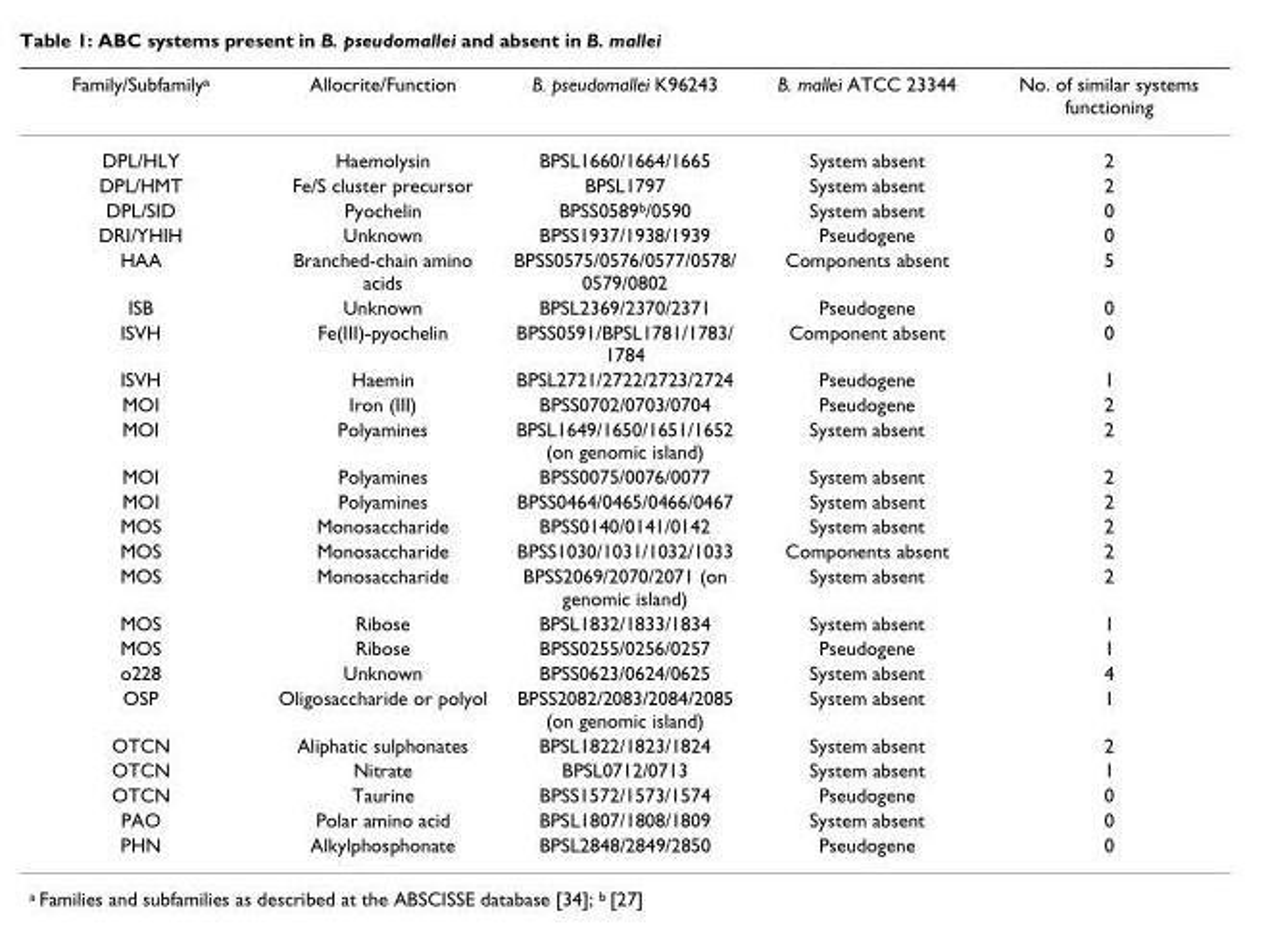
<table><thead><tr><td>Family/Subfamilya</td><td>Allocrite/Function</td><td>B. pseudomallei K96243</td><td>B. mallei ATCC 23344</td><td>No. of similar systems functioning</td></tr></thead><tbody><tr><td>DPL/HLY</td><td>Haemolysin</td><td>BPSL1660/1664/1665</td><td>System absent</td><td>2</td></tr><tr><td>DPL/HMT</td><td>Fe/S cluster precursor</td><td>BPSL1797</td><td>System absent</td><td>2</td></tr><tr><td>DPL/SID</td><td>Pyochelin</td><td>BPSS0589b/0590</td><td>System absent</td><td>0</td></tr><tr><td>DRI/YHIH</td><td>Unknown</td><td>BPSS1937/1938/1939</td><td>Pseudogene</td><td>0</td></tr><tr><td>HAA</td><td>Branched-chain amino acids</td><td>BPSS0575/0576/0577/0578/ 0579/0802</td><td>Components absent</td><td>5</td></tr><tr><td>ISB</td><td>Unknown</td><td>BPSL2369/2370/2371</td><td>Pseudogene</td><td>0</td></tr><tr><td>ISVH</td><td>Fe(III)-pyochelin</td><td>BPSS0591/BPSL1781/1783/ 1784</td><td>Component absent</td><td>0</td></tr><tr><td>ISVH</td><td>Haemin</td><td>BPSL2721/2722/2723/2724</td><td>Pseudogene</td><td>1</td></tr><tr><td>MOI</td><td>Iron (III)</td><td>BPSS0702/0703/0704</td><td>Pseudogene</td><td>2</td></tr><tr><td>MOI</td><td>Polyamines</td><td>BPSL1649/1650/1651/1652 (on genomic island)</td><td>System absent</td><td>2</td></tr><tr><td>MOI</td><td>Polyamines</td><td>BPSS0075/0076/0077</td><td>System absent</td><td>2</td></tr><tr><td>MOI</td><td>Polyamines</td><td>BPSS0464/0465/0466/0467</td><td>System absent</td><td>2</td></tr><tr><td>MOS</td><td>Monosaccharide</td><td>BPSS0140/0141/0142</td><td>System absent</td><td>2</td></tr><tr><td>MOS</td><td>Monosaccharide</td><td>BPSS1030/1031/1032/1033</td><td>Components absent</td><td>2</td></tr><tr><td>MOS</td><td>Monosaccharide</td><td>BPSS2069/2070/2071 (on genomic island)</td><td>System absent</td><td>2</td></tr><tr><td>MOS</td><td>Ribose</td><td>BPSL1832/1833/1834</td><td>System absent</td><td>1</td></tr><tr><td>MOS</td><td>Ribose</td><td>BPSS0255/0256/0257</td><td>Pseudogene</td><td>1</td></tr><tr><td>o228</td><td>Unknown</td><td>BPSS0623/0624/0625</td><td>System absent</td><td>4</td></tr><tr><td>OSP</td><td>Oligosaccharide or polyol</td><td>BPSS2082/2083/2084/2085 (on genomic island)</td><td>System absent</td><td>1</td></tr><tr><td>OTCN</td><td>Aliphatic sulphonates</td><td>BPSL1822/1823/1824</td><td>System absent</td><td>2</td></tr><tr><td>OTCN</td><td>Nitrate</td><td>BPSL0712/0713</td><td>System absent</td><td>1</td></tr><tr><td>OTCN</td><td>Taurine</td><td>BPSS1572/1573/1574</td><td>Pseudogene</td><td>0</td></tr><tr><td>PAO</td><td>Polar amino acid</td><td>BPSL1807/1808/1809</td><td>System absent</td><td>0</td></tr><tr><td>PHN</td><td>Alkylphosphonate</td><td>BPSL2848/2849/2850</td><td>Pseudogene</td><td>0</td></tr></tbody></table>